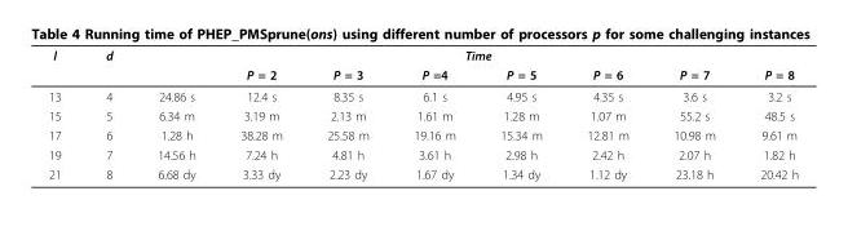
<table><thead><tr><td rowspan="2">l</td><td rowspan="2">d</td><td colspan="8">Time</td></tr><tr><td></td><td>P = 2</td><td>P = 3</td><td>P =4</td><td>P = 5</td><td>P = 6</td><td>P = 7</td><td>P = 8</td></tr></thead><tbody><tr><td>13</td><td>4</td><td>24.86 s</td><td>12.4 s</td><td>8.35 s</td><td>6.1 s</td><td>4.95 s</td><td>4.35 s</td><td>3.6 s</td><td>3.2 s</td></tr><tr><td>15</td><td>5</td><td>6.34 m</td><td>3.19 m</td><td>2.13 m</td><td>1.61 m</td><td>1.28 m</td><td>1.07 m</td><td>55.2 s</td><td>48.5 s</td></tr><tr><td>17</td><td>6</td><td>1.28 h</td><td>38.28 m</td><td>25.58 m</td><td>19.16 m</td><td>15.34 m</td><td>12.81 m</td><td>10.98 m</td><td>9.61 m</td></tr><tr><td>19</td><td>7</td><td>14.56 h</td><td>7.24 h</td><td>4.81 h</td><td>3.61 h</td><td>2.98 h</td><td>2.42 h</td><td>2.07 h</td><td>1.82 h</td></tr><tr><td>21</td><td>8</td><td>6.68 dy</td><td>3.33 dy</td><td>2.23 dy</td><td>1.67 dy</td><td>1.34 dy</td><td>1.12 dy</td><td>23.18 h</td><td>20.42 h</td></tr></tbody></table>